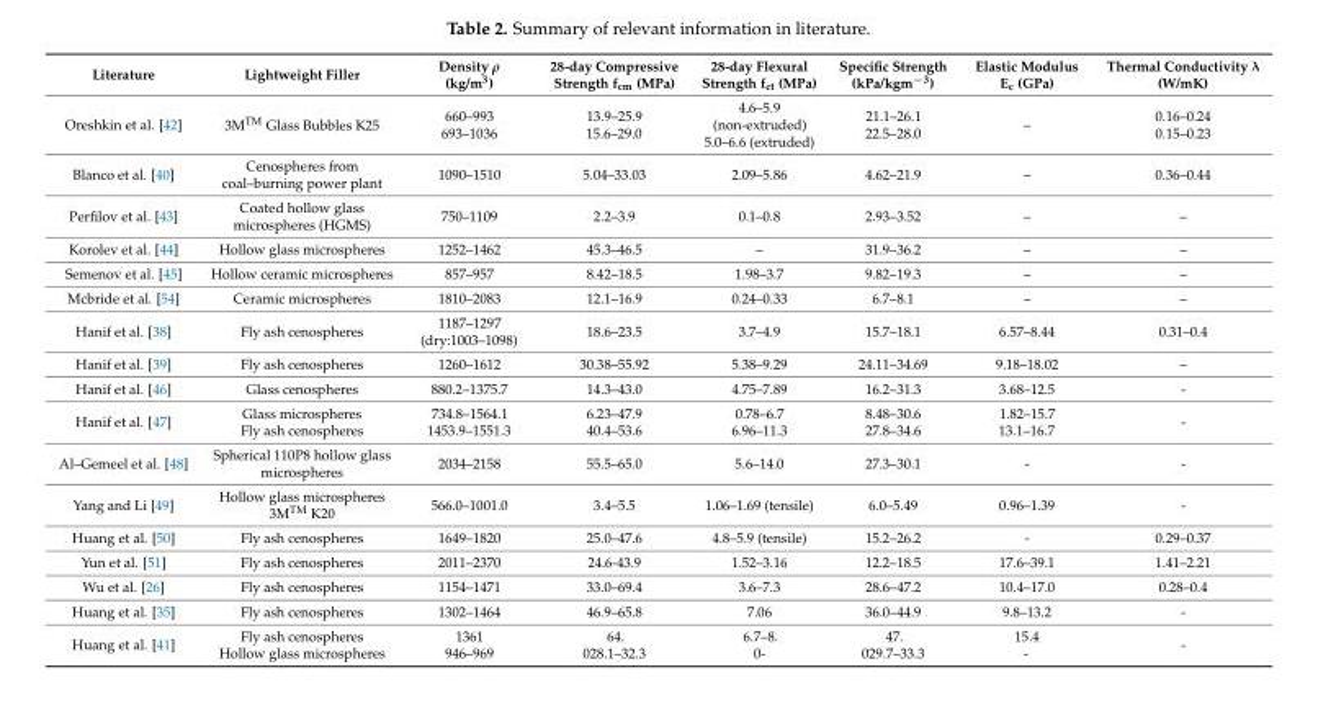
<table><thead><tr><td>Literature</td><td>Lightweight Filler</td><td>Density ρ (kg/m<sup>3</sup>)</td><td>28-day Compressive Strength f<sub>cm</sub> (MPa)</td><td>28-day Flexural Strength f<sub>ct</sub> (MPa)</td><td>Specific Strength (kPa/kgm<sup>−3</sup>)</td><td>Elastic Modulus E<sub>c</sub> (GPa)</td><td>Thermal Conductivity λ (W/mK)</td></tr></thead><tbody><tr><td>Oreshkin et al. [42]</td><td>3M<sup>TM</sup> Glass Bubbles K25</td><td>660–993 693–1036</td><td>13.9–25.9 15.6–29.0</td><td>4.6–5.9 (non-extruded) 5.0–6.6 (extruded)</td><td>21.1–26.1 22.5–28.0</td><td>–</td><td>0.16–0.24 0.15–0.23</td></tr><tr><td>Blanco et al. [40]</td><td>Cenospheres from coal–burning power plant</td><td>1090–1510</td><td>5.04–33.03</td><td>2.09–5.86</td><td>4.62–21.9</td><td>–</td><td>0.36–0.44</td></tr><tr><td>Perfilov et al. [43]</td><td>Coated hollow glass microspheres (HGMS)</td><td>750–1109</td><td>2.2–3.9</td><td>0.1–0.8</td><td>2.93–3.52</td><td>–</td><td>–</td></tr><tr><td>Korolev et al. [44]</td><td>Hollow glass microspheres</td><td>1252–1462</td><td>45.3–46.5</td><td>–</td><td>31.9–36.2</td><td>–</td><td>–</td></tr><tr><td>Semenov et al. [45]</td><td>Hollow ceramic microspheres</td><td>857–957</td><td>8.42–18.5</td><td>1.98–3.7</td><td>9.82–19.3</td><td>–</td><td>–</td></tr><tr><td>Mcbride et al. [54]</td><td>Ceramic microspheres</td><td>1810–2083</td><td>12.1–16.9</td><td>0.24–0.33</td><td>6.7–8.1</td><td>–</td><td>–</td></tr><tr><td>Hanif et al. [38]</td><td>Fly ash cenospheres</td><td>1187–1297 (dry:1003–1098)</td><td>18.6–23.5</td><td>3.7–4.9</td><td>15.7–18.1</td><td>6.57–8.44</td><td>0.31–0.4</td></tr><tr><td>Hanif et al. [39]</td><td>Fly ash cenospheres</td><td>1260–1612</td><td>30.38–55.92</td><td>5.38–9.29</td><td>24.11–34.69</td><td>9.18–18.02</td><td>–</td></tr><tr><td>Hanif et al. [46]</td><td>Glass cenospheres</td><td>880.2–1375.7</td><td>14.3–43.0</td><td>4.75–7.89</td><td>16.2–31.3</td><td>3.68–12.5</td><td>-</td></tr><tr><td>Hanif et al. [47]</td><td>Glass microspheres Fly ash cenospheres</td><td>734.8–1564.1 1453.9–1551.3</td><td>6.23–47.9 40.4–53.6</td><td>0.78–6.7 6.96–11.3</td><td>8.48–30.6 27.8–34.6</td><td>1.82–15.7 13.1–16.7</td><td>-</td></tr><tr><td>Al–Gemeel et al. [48]</td><td>Spherical 110P8 hollow glass microspheres</td><td>2034–2158</td><td>55.5–65.0</td><td>5.6–14.0</td><td>27.3–30.1</td><td>-</td><td>-</td></tr><tr><td>Yang and Li [49]</td><td>Hollow glass microspheres 3M<sup>TM</sup> K20</td><td>566.0–1001.0</td><td>3.4–5.5</td><td>1.06–1.69 (tensile)</td><td>6.0–5.49</td><td>0.96–1.39</td><td>-</td></tr><tr><td>Huang et al. [50]</td><td>Fly ash cenospheres</td><td>1649–1820</td><td>25.0–47.6</td><td>4.8–5.9 (tensile)</td><td>15.2–26.2</td><td>-</td><td>0.29–0.37</td></tr><tr><td>Yun et al. [51]</td><td>Fly ash cenospheres</td><td>2011–2370</td><td>24.6-43.9</td><td>1.52–3.16</td><td>12.2–18.5</td><td>17.6–39.1</td><td>1.41–2.21</td></tr><tr><td>Wu et al. [26]</td><td>Fly ash cenospheres</td><td>1154–1471</td><td>33.0–69.4</td><td>3.6–7.3</td><td>28.6–47.2</td><td>10.4–17.0</td><td>0.28–0.4</td></tr><tr><td>Huang et al. [35]</td><td>Fly ash cenospheres</td><td>1302–1464</td><td>46.9–65.8</td><td>7.06</td><td>36.0–44.9</td><td>9.8–13.2</td><td>-</td></tr><tr><td>Huang et al. [41]</td><td>Fly ash cenospheres Hollow glass microspheres</td><td>1361 946–969</td><td>64. 028.1–32.3</td><td>6.7–8. 0-</td><td>47. 029.7–33.3</td><td>15.4 -</td><td>-</td></tr></tbody></table>